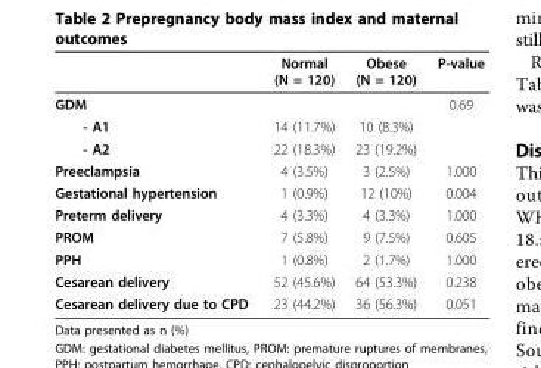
<table><thead><tr><td></td><td>Normal (N = 120)</td><td>Obese (N = 120)</td><td>P-value</td></tr></thead><tbody><tr><td>GDM</td><td></td><td></td><td>0.69</td></tr><tr><td>- A1</td><td>14 (11.7%)</td><td>10 (8.3%)</td><td></td></tr><tr><td>- A2</td><td>22 (18.3%)</td><td>23 (19.2%)</td><td></td></tr><tr><td>Preeclampsia</td><td>4 (3.5%)</td><td>3 (2.5%)</td><td>1.000</td></tr><tr><td>Gestational hypertension</td><td>1 (0.9%)</td><td>12 (10%)</td><td>0.004</td></tr><tr><td>Preterm delivery</td><td>4 (3.3%)</td><td>4 (3.3%)</td><td>1.000</td></tr><tr><td>PROM</td><td>7 (5.8%)</td><td>9 (7.5%)</td><td>0.605</td></tr><tr><td>PPH</td><td>1 (0.8%)</td><td>2 (1.7%)</td><td>1.000</td></tr><tr><td>Cesarean delivery</td><td>52 (45.6%)</td><td>64 (53.3%)</td><td>0.238</td></tr><tr><td>Cesarean delivery due to CPD</td><td>23 (44.2%)</td><td>36 (56.3%)</td><td>0.051</td></tr></tbody></table>